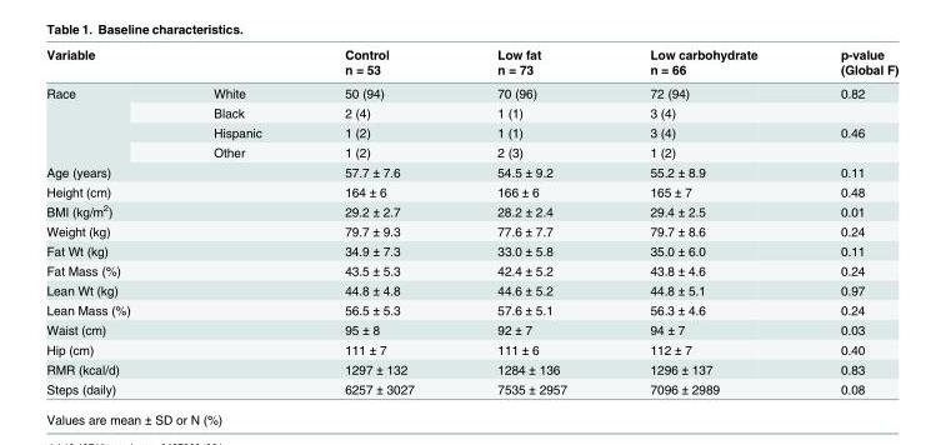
<table><thead><tr><td rowspan="2">Variable</td><td rowspan="2"></td><td rowspan="2">Control n = 53</td><td rowspan="2">Low fat n = 73</td><td rowspan="2">Low carbohydrate n = 66</td><td rowspan="2">p-value (Global F)</td></tr><tr></tr></thead><tbody><tr><td rowspan="4">Race</td><td>White</td><td>50 (94)</td><td>70 (96)</td><td>72 (94)</td><td>0.82</td></tr><tr><td>Black</td><td>2 (4)</td><td>1 (1)</td><td>3 (4)</td><td></td></tr><tr><td>Hispanic</td><td>1 (2)</td><td>1 (1)</td><td>3 (4)</td><td>0.46</td></tr><tr><td>Other</td><td>1 (2)</td><td>2 (3)</td><td>1 (2)</td><td></td></tr><tr><td>Age (years)</td><td></td><td>57.7 ± 7.6</td><td>54.5 ± 9.2</td><td>55.2 ± 8.9</td><td>0.11</td></tr><tr><td>Height (cm)</td><td></td><td>164 ± 6</td><td>166 ± 6</td><td>165 ± 7</td><td>0.48</td></tr><tr><td>BMI (kg/m<sup>2</sup>)</td><td></td><td>29.2 ± 2.7</td><td>28.2 ± 2.4</td><td>29.4 ± 2.5</td><td>0.01</td></tr><tr><td>Weight (kg)</td><td></td><td>79.7 ± 9.3</td><td>77.6 ± 7.7</td><td>79.7 ± 8.6</td><td>0.24</td></tr><tr><td>Fat Wt (kg)</td><td></td><td>34.9 ± 7.3</td><td>33.0 ± 5.8</td><td>35.0 ± 6.0</td><td>0.11</td></tr><tr><td>Fat Mass (%)</td><td></td><td>43.5 ± 5.3</td><td>42.4 ± 5.2</td><td>43.8 ± 4.6</td><td>0.24</td></tr><tr><td>Lean Wt (kg)</td><td></td><td>44.8 ± 4.8</td><td>44.6 ± 5.2</td><td>44.8 ± 5.1</td><td>0.97</td></tr><tr><td>Lean Mass (%)</td><td></td><td>56.5 ± 5.3</td><td>57.6 ± 5.1</td><td>56.3 ± 4.6</td><td>0.24</td></tr><tr><td>Waist (cm)</td><td></td><td>95 ± 8</td><td>92 ± 7</td><td>94 ± 7</td><td>0.03</td></tr><tr><td>Hip (cm)</td><td></td><td>111 ± 7</td><td>111 ± 6</td><td>112 ± 7</td><td>0.40</td></tr><tr><td>RMR (kcal/d)</td><td></td><td>1297 ± 132</td><td>1284 ± 136</td><td>1296 ± 137</td><td>0.83</td></tr><tr><td>Steps (daily)</td><td></td><td>6257 ± 3027</td><td>7535 ± 2957</td><td>7096 ± 2989</td><td>0.08</td></tr></tbody></table>